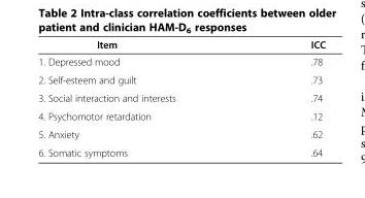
<table><thead><tr><td>Item</td><td>ICC</td></tr></thead><tbody><tr><td>1. Depressed mood</td><td>.78</td></tr><tr><td>2. Self-esteem and guilt</td><td>.73</td></tr><tr><td>3. Social interaction and interests</td><td>.74</td></tr><tr><td>4. Psychomotor retardation</td><td>.12</td></tr><tr><td>5. Anxiety</td><td>.62</td></tr><tr><td>6. Somatic symptoms</td><td>.64</td></tr></tbody></table>